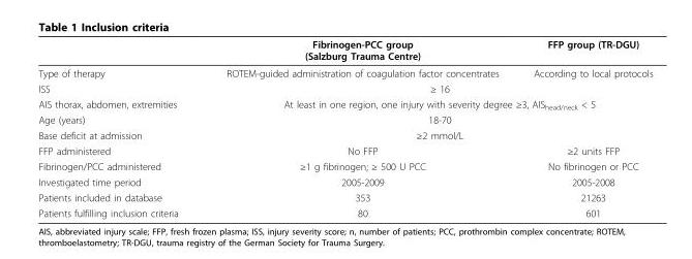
<table><thead><tr><td></td><td>Fibrinogen-PCC group (Salzburg Trauma Centre)</td><td>FFP group (TR-DGU)</td></tr></thead><tbody><tr><td>Type of therapy</td><td>ROTEM-guided administration of coagulation factor concentrates</td><td>According to local protocols</td></tr><tr><td>ISS</td><td colspan="2">≥ 16</td></tr><tr><td>AIS thorax, abdomen, extremities</td><td colspan="2">At least in one region, one injury with severity degree ≥3, AIS<sub>head/neck</sub> &lt; 5</td></tr><tr><td>Age (years)</td><td colspan="2">18-70</td></tr><tr><td>Base deficit at admission</td><td colspan="2">≥2 mmol/L</td></tr><tr><td>FFP administered</td><td>No FFP</td><td>≥2 units FFP</td></tr><tr><td>Fibrinogen/PCC administered</td><td>≥1 g fibrinogen; ≥ 500 U PCC</td><td>No fibrinogen or PCC</td></tr><tr><td>Investigated time period</td><td>2005-2009</td><td>2005-2008</td></tr><tr><td>Patients included in database</td><td>353</td><td>21263</td></tr><tr><td>Patients fulfilling inclusion criteria</td><td>80</td><td>601</td></tr></tbody></table>